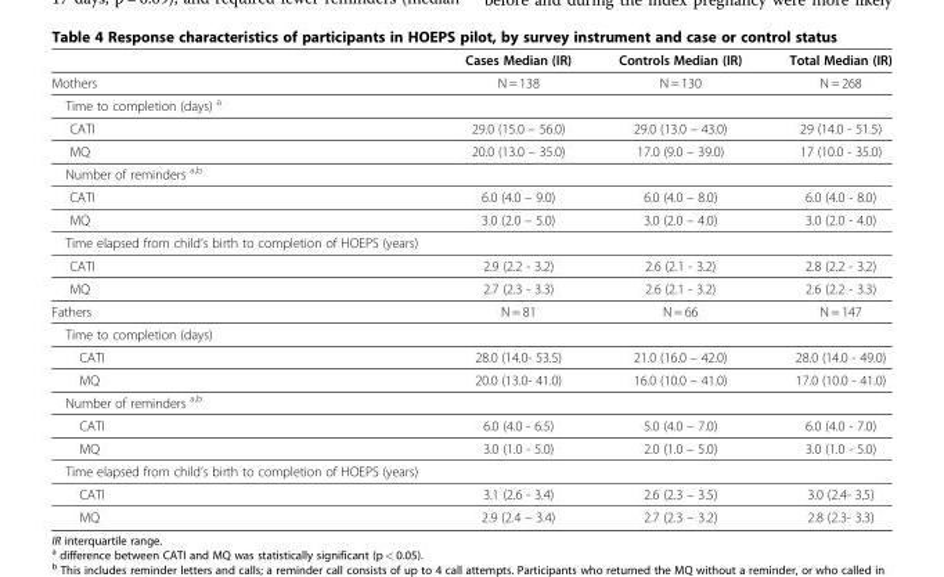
<table><thead><tr><td></td><td>Cases Median (IR)</td><td>Controls Median (IR)</td><td>Total Median (IR)</td></tr></thead><tbody><tr><td>Mothers</td><td>N = 138</td><td>N = 130</td><td>N = 268</td></tr><tr><td colspan="4">Time to completion (days) <sup>a</sup></td></tr><tr><td>CATI</td><td>29.0 (15.0 – 56.0)</td><td>29.0 (13.0 – 43.0)</td><td>29 (14.0 - 51.5)</td></tr><tr><td>MQ</td><td>20.0 (13.0 – 35.0)</td><td>17.0 (9.0 – 39.0)</td><td>17 (10.0 - 35.0)</td></tr><tr><td colspan="4">Number of reminders <sup>a,b</sup></td></tr><tr><td>CATI</td><td>6.0 (4.0 – 9.0)</td><td>6.0 (4.0 – 8.0)</td><td>6.0 (4.0 - 8.0)</td></tr><tr><td>MQ</td><td>3.0 (2.0 – 5.0)</td><td>3.0 (2.0 – 4.0)</td><td>3.0 (2.0 - 4.0)</td></tr><tr><td colspan="4">Time elapsed from child’s birth to completion of HOEPS (years)</td></tr><tr><td>CATI</td><td>2.9 (2.2 - 3.2)</td><td>2.6 (2.1 - 3.2)</td><td>2.8 (2.2 - 3.2)</td></tr><tr><td>MQ</td><td>2.7 (2.3 - 3.3)</td><td>2.6 (2.1 - 3.2)</td><td>2.6 (2.2 - 3.3)</td></tr><tr><td>Fathers</td><td>N = 81</td><td>N = 66</td><td>N = 147</td></tr><tr><td colspan="4">Time to completion (days)</td></tr><tr><td>CATI</td><td>28.0 (14.0- 53.5)</td><td>21.0 (16.0 – 42.0)</td><td>28.0 (14.0 - 49.0)</td></tr><tr><td>MQ</td><td>20.0 (13.0- 41.0)</td><td>16.0 (10.0 – 41.0)</td><td>17.0 (10.0 - 41.0)</td></tr><tr><td colspan="4">Number of reminders <sup>a,b</sup></td></tr><tr><td>CATI</td><td>6.0 (4.0 - 6.5)</td><td>5.0 (4.0 – 7.0)</td><td>6.0 (4.0 - 7.0)</td></tr><tr><td>MQ</td><td>3.0 (1.0 - 5.0)</td><td>2.0 (1.0 – 5.0)</td><td>3.0 (1.0 - 5.0)</td></tr><tr><td colspan="4">Time elapsed from child’s birth to completion of HOEPS (years)</td></tr><tr><td>CATI</td><td>3.1 (2.6 - 3.4)</td><td>2.6 (2.3 – 3.5)</td><td>3.0 (2.4- 3.5)</td></tr><tr><td>MQ</td><td>2.9 (2.4 – 3.4)</td><td>2.7 (2.3 – 3.2)</td><td>2.8 (2.3- 3.3)</td></tr></tbody></table>